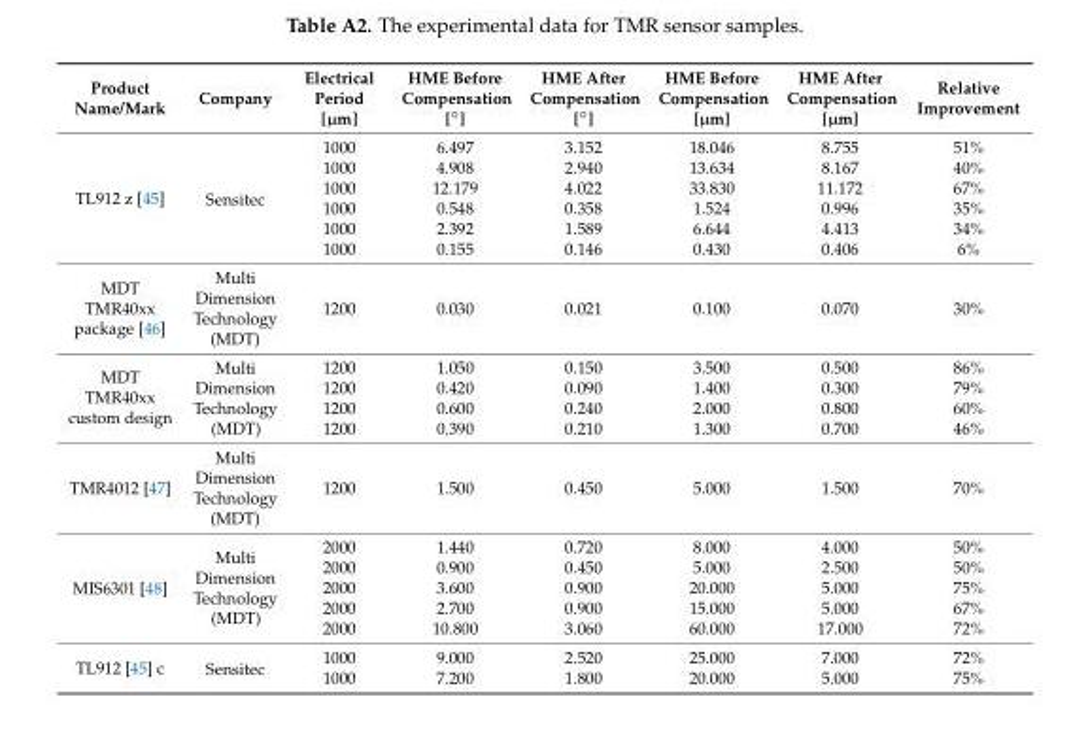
<table><thead><tr><td>Product Name/Mark</td><td>Company</td><td>Electrical Period [µm]</td><td>HME Before Compensation [◦]</td><td>HME After Compensation [◦]</td><td>HME Before Compensation [µm]</td><td>HME After Compensation [µm]</td><td>Relative Improvement</td></tr></thead><tbody><tr><td rowspan="6">TL912 z [45]</td><td rowspan="6">Sensitec</td><td>1000</td><td>6.497</td><td>3.152</td><td>18.046</td><td>8.755</td><td>51%</td></tr><tr><td>1000</td><td>4.908</td><td>2.940</td><td>13.634</td><td>8.167</td><td>40%</td></tr><tr><td>1000</td><td>12.179</td><td>4.022</td><td>33.830</td><td>11.172</td><td>67%</td></tr><tr><td>1000</td><td>0.548</td><td>0.358</td><td>1.524</td><td>0.996</td><td>35%</td></tr><tr><td>1000</td><td>2.392</td><td>1.589</td><td>6.644</td><td>4.413</td><td>34%</td></tr><tr><td>1000</td><td>0.155</td><td>0.146</td><td>0.430</td><td>0.406</td><td>6%</td></tr><tr><td>MDT TMR40xx package [46]</td><td>Multi Dimension Technology (MDT)</td><td>1200</td><td>0.030</td><td>0.021</td><td>0.100</td><td>0.070</td><td>30%</td></tr><tr><td rowspan="4">MDT TMR40xx custom design</td><td rowspan="4">Multi Dimension Technology (MDT)</td><td>1200</td><td>1.050</td><td>0.150</td><td>3.500</td><td>0.500</td><td>86%</td></tr><tr><td>1200</td><td>0.420</td><td>0.090</td><td>1.400</td><td>0.300</td><td>79%</td></tr><tr><td>1200</td><td>0.600</td><td>0.240</td><td>2.000</td><td>0.800</td><td>60%</td></tr><tr><td>1200</td><td>0.390</td><td>0.210</td><td>1.300</td><td>0.700</td><td>46%</td></tr><tr><td>TMR4012 [47]</td><td>Multi Dimension Technology (MDT)</td><td>1200</td><td>1.500</td><td>0.450</td><td>5.000</td><td>1.500</td><td>70%</td></tr><tr><td rowspan="5">MIS6301 [48]</td><td rowspan="5">Multi Dimension Technology (MDT)</td><td>2000</td><td>1.440</td><td>0.720</td><td>8.000</td><td>4.000</td><td>50%</td></tr><tr><td>2000</td><td>0.900</td><td>0.450</td><td>5.000</td><td>2.500</td><td>50%</td></tr><tr><td>2000</td><td>3.600</td><td>0.900</td><td>20.000</td><td>5.000</td><td>75%</td></tr><tr><td>2000</td><td>2.700</td><td>0.900</td><td>15.000</td><td>5.000</td><td>67%</td></tr><tr><td>2000</td><td>10.800</td><td>3.060</td><td>60.000</td><td>17.000</td><td>72%</td></tr><tr><td rowspan="2">TL912 [45] c</td><td rowspan="2">Sensitec</td><td>1000</td><td>9.000</td><td>2.520</td><td>25.000</td><td>7.000</td><td>72%</td></tr><tr><td>1000</td><td>7.200</td><td>1.800</td><td>20.000</td><td>5.000</td><td>75%</td></tr></tbody></table>